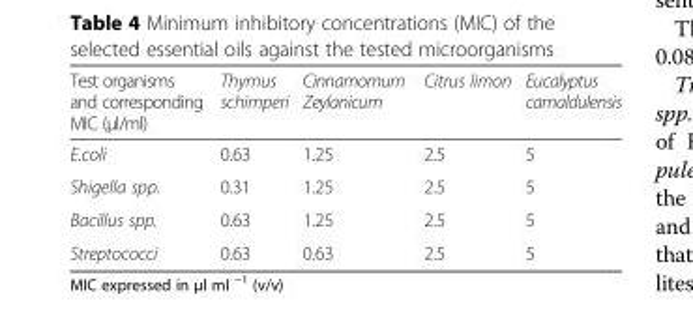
<table><thead><tr><td>Test organisms and corresponding MIC (μl/ml)</td><td>Thymus schimperi</td><td>Cinnamomum Zeylanicum</td><td>Citrus limon</td><td>Eucalyptus camaldulensis</td></tr></thead><tbody><tr><td>E.coli</td><td>0.63</td><td>1.25</td><td>2.5</td><td>5</td></tr><tr><td>Shigella spp.</td><td>0.31</td><td>1.25</td><td>2.5</td><td>5</td></tr><tr><td>Bacillus spp.</td><td>0.63</td><td>1.25</td><td>2.5</td><td>5</td></tr><tr><td>Streptococci</td><td>0.63</td><td>0.63</td><td>2.5</td><td>5</td></tr></tbody></table>